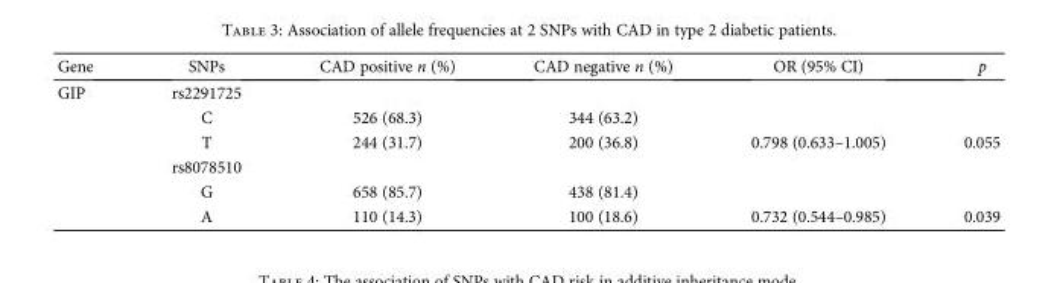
<table><thead><tr><td>Gene</td><td>SNPs</td><td>CAD positive n (%)</td><td>CAD negative n (%)</td><td>OR (95% CI)</td><td>p</td></tr></thead><tbody><tr><td rowspan="6">GIP</td><td>rs2291725</td><td></td><td></td><td></td><td></td></tr><tr><td>C</td><td>526 (68.3)</td><td>344 (63.2)</td><td></td><td></td></tr><tr><td>T</td><td>244 (31.7)</td><td>200 (36.8)</td><td>0.798 (0.633–1.005)</td><td>0.055</td></tr><tr><td>rs8078510</td><td></td><td></td><td></td><td></td></tr><tr><td>G</td><td>658 (85.7)</td><td>438 (81.4)</td><td></td><td></td></tr><tr><td>A</td><td>110 (14.3)</td><td>100 (18.6)</td><td>0.732 (0.544–0.985)</td><td>0.039</td></tr></tbody></table>